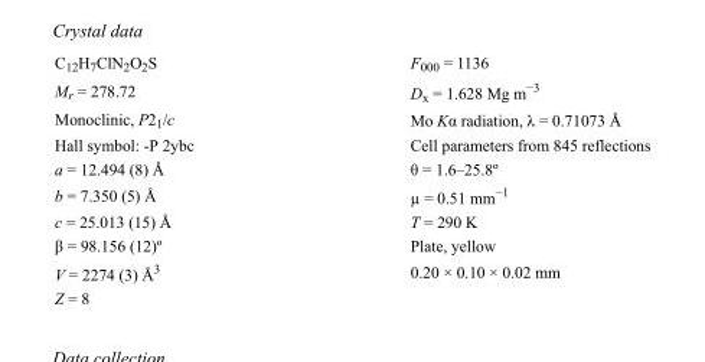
<table><tbody><tr><td>C<sub>12</sub>H<sub>7</sub>ClN<sub>2</sub>O<sub>2</sub>S</td><td>F000 = 1136</td></tr><tr><td>M<sub>r</sub> = 278.72</td><td>D<sub>x</sub> = 1.628 Mg m<sup>−3</sup></td></tr><tr><td>Monoclinic, P2<sub>1</sub>/c</td><td>Mo Kα radiation, λ = 0.71073 Å</td></tr><tr><td>Hall symbol: -P 2ybc</td><td>Cell parameters from 845 reflections</td></tr><tr><td>a = 12.494 (8) Å</td><td>θ = 1.6–25.8º</td></tr><tr><td>b = 7.350 (5) Å</td><td>µ = 0.51 mm<sup>−1</sup></td></tr><tr><td>c = 25.013 (15) Å</td><td>T = 290 K</td></tr><tr><td>β = 98.156 (12)º</td><td>Plate, yellow</td></tr><tr><td>V = 2274 (3) Å<sup>3</sup></td><td>0.20 × 0.10 × 0.02 mm</td></tr><tr><td>Z = 8</td><td></td></tr></tbody></table>